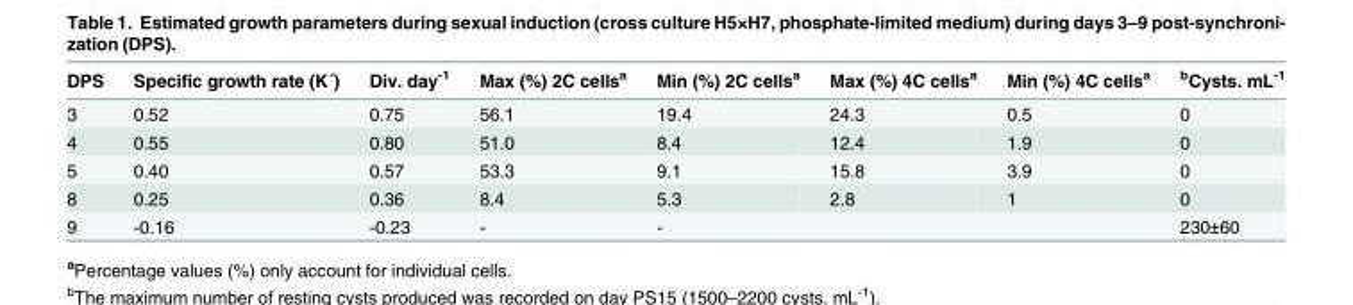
<table><thead><tr><td>DPS</td><td>Specific growth rate (K´)</td><td>Div. day<sup>-1</sup></td><td>Max (%) 2C cells<sup>a</sup></td><td>Min (%) 2C cells<sup>a</sup></td><td>Max (%) 4C cells<sup>a</sup></td><td>Min (%) 4C cells<sup>a</sup></td><td><sup>b</sup>Cysts. mL<sup>-1</sup></td></tr></thead><tbody><tr><td>3</td><td>0.52</td><td>0.75</td><td>56.1</td><td>19.4</td><td>24.3</td><td>0.5</td><td>0</td></tr><tr><td>4</td><td>0.55</td><td>0.80</td><td>51.0</td><td>8.4</td><td>12.4</td><td>1.9</td><td>0</td></tr><tr><td>5</td><td>0.40</td><td>0.57</td><td>53.3</td><td>9.1</td><td>15.8</td><td>3.9</td><td>0</td></tr><tr><td>8</td><td>0.25</td><td>0.36</td><td>8.4</td><td>5.3</td><td>2.8</td><td>1</td><td>0</td></tr><tr><td>9</td><td>-0.16</td><td>-0.23</td><td>-</td><td>-</td><td></td><td></td><td>230±60</td></tr></tbody></table>